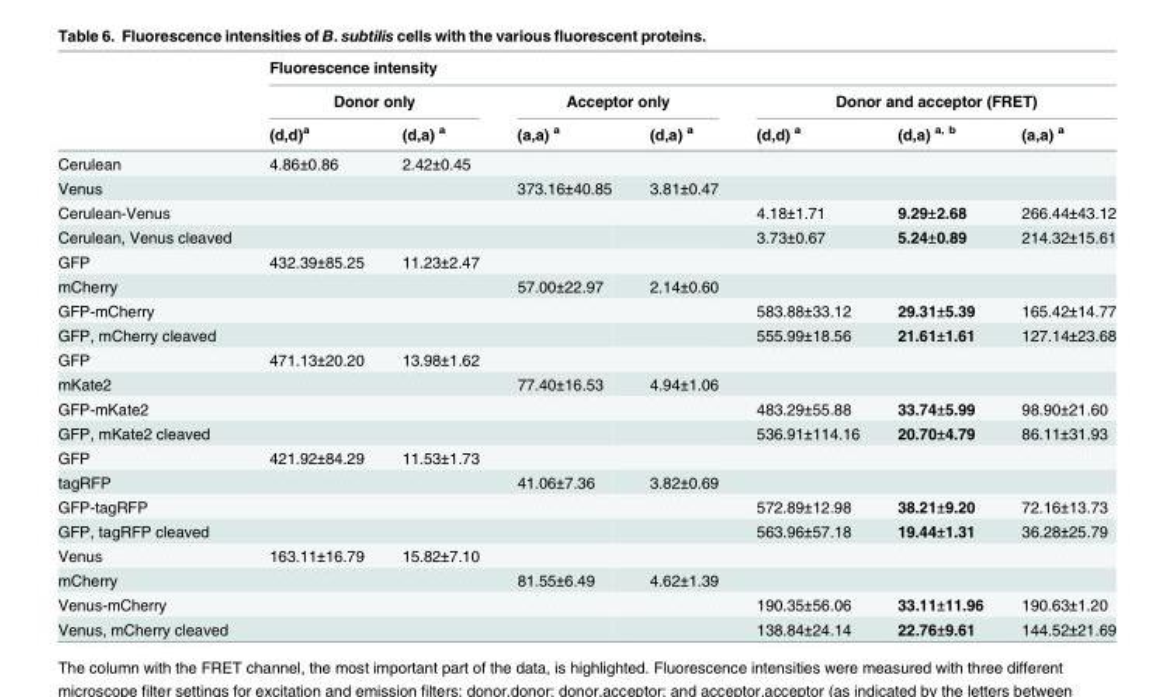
<table><thead><tr><td rowspan="3"></td><td colspan="7">Fluorescence intensity</td></tr><tr><td colspan="2">Donor only</td><td colspan="2">Acceptor only</td><td colspan="3">Donor and acceptor (FRET)</td></tr><tr><td>(d,d)<sup>a</sup></td><td>(d,a) <sup>a</sup></td><td>(a,a) <sup>a</sup></td><td>(d,a) <sup>a</sup></td><td>(d,d) <sup>a</sup></td><td>(d,a) <sup>a, b</sup></td><td>(a,a) <sup>a</sup></td></tr></thead><tbody><tr><td>Cerulean</td><td>4.86±0.86</td><td>2.42±0.45</td><td></td><td></td><td></td><td></td><td></td></tr><tr><td>Venus</td><td></td><td></td><td>373.16±40.85</td><td>3.81±0.47</td><td></td><td></td><td></td></tr><tr><td>Cerulean-Venus</td><td></td><td></td><td></td><td></td><td>4.18±1.71</td><td>9.29±2.68</td><td>266.44±43.12</td></tr><tr><td>Cerulean, Venus cleaved</td><td></td><td></td><td></td><td></td><td>3.73±0.67</td><td>5.24±0.89</td><td>214.32±15.61</td></tr><tr><td>GFP</td><td>432.39±85.25</td><td>11.23±2.47</td><td></td><td></td><td></td><td></td><td></td></tr><tr><td>mCherry</td><td></td><td></td><td>57.00±22.97</td><td>2.14±0.60</td><td></td><td></td><td></td></tr><tr><td>GFP-mCherry</td><td></td><td></td><td></td><td></td><td>583.88±33.12</td><td>29.31±5.39</td><td>165.42±14.77</td></tr><tr><td>GFP, mCherry cleaved</td><td></td><td></td><td></td><td></td><td>555.99±18.56</td><td>21.61±1.61</td><td>127.14±23.68</td></tr><tr><td>GFP</td><td>471.13±20.20</td><td>13.98±1.62</td><td></td><td></td><td></td><td></td><td></td></tr><tr><td>mKate2</td><td></td><td></td><td>77.40±16.53</td><td>4.94±1.06</td><td></td><td></td><td></td></tr><tr><td>GFP-mKate2</td><td></td><td></td><td></td><td></td><td>483.29±55.88</td><td>33.74±5.99</td><td>98.90±21.60</td></tr><tr><td>GFP, mKate2 cleaved</td><td></td><td></td><td></td><td></td><td>536.91±114.16</td><td>20.70±4.79</td><td>86.11±31.93</td></tr><tr><td>GFP</td><td>421.92±84.29</td><td>11.53±1.73</td><td></td><td></td><td></td><td></td><td></td></tr><tr><td>tagRFP</td><td></td><td></td><td>41.06±7.36</td><td>3.82±0.69</td><td></td><td></td><td></td></tr><tr><td>GFP-tagRFP</td><td></td><td></td><td></td><td></td><td>572.89±12.98</td><td>38.21±9.20</td><td>72.16±13.73</td></tr><tr><td>GFP, tagRFP cleaved</td><td></td><td></td><td></td><td></td><td>563.96±57.18</td><td>19.44±1.31</td><td>36.28±25.79</td></tr><tr><td>Venus</td><td>163.11±16.79</td><td>15.82±7.10</td><td></td><td></td><td></td><td></td><td></td></tr><tr><td>mCherry</td><td></td><td></td><td>81.55±6.49</td><td>4.62±1.39</td><td></td><td></td><td></td></tr><tr><td>Venus-mCherry</td><td></td><td></td><td></td><td></td><td>190.35±56.06</td><td>33.11±11.96</td><td>190.63±1.20</td></tr><tr><td>Venus, mCherry cleaved</td><td></td><td></td><td></td><td></td><td>138.84±24.14</td><td>22.76±9.61</td><td>144.52±21.69</td></tr></tbody></table>